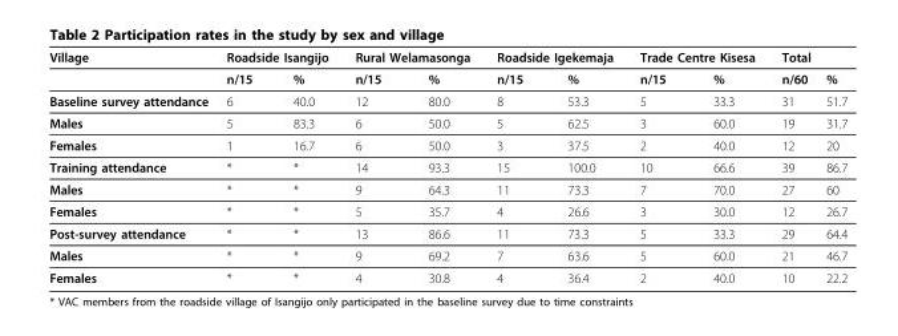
<table><thead><tr><td rowspan="2">Village</td><td colspan="2">Roadside Isangijo</td><td colspan="2">Rural Welamasonga</td><td colspan="2">Roadside Igekemaja</td><td colspan="2">Trade Centre Kisesa</td><td colspan="2">Total</td></tr><tr><td>n/15</td><td>%</td><td>n/15</td><td>%</td><td>n/15</td><td>%</td><td>n/15</td><td>%</td><td>n/60</td><td>%</td></tr></thead><tbody><tr><td>Baseline survey attendance</td><td>6</td><td>40.0</td><td>12</td><td>80.0</td><td>8</td><td>53.3</td><td>5</td><td>33.3</td><td>31</td><td>51.7</td></tr><tr><td>Males</td><td>5</td><td>83.3</td><td>6</td><td>50.0</td><td>5</td><td>62.5</td><td>3</td><td>60.0</td><td>19</td><td>31.7</td></tr><tr><td>Females</td><td>1</td><td>16.7</td><td>6</td><td>50.0</td><td>3</td><td>37.5</td><td>2</td><td>40.0</td><td>12</td><td>20</td></tr><tr><td>Training attendance</td><td>*</td><td>*</td><td>14</td><td>93.3</td><td>15</td><td>100.0</td><td>10</td><td>66.6</td><td>39</td><td>86.7</td></tr><tr><td>Males</td><td>*</td><td>*</td><td>9</td><td>64.3</td><td>11</td><td>73.3</td><td>7</td><td>70.0</td><td>27</td><td>60</td></tr><tr><td>Females</td><td>*</td><td>*</td><td>5</td><td>35.7</td><td>4</td><td>26.6</td><td>3</td><td>30.0</td><td>12</td><td>26.7</td></tr><tr><td>Post-survey attendance</td><td>*</td><td>*</td><td>13</td><td>86.6</td><td>11</td><td>73.3</td><td>5</td><td>33.3</td><td>29</td><td>64.4</td></tr><tr><td>Males</td><td>*</td><td>*</td><td>9</td><td>69.2</td><td>7</td><td>63.6</td><td>5</td><td>60.0</td><td>21</td><td>46.7</td></tr><tr><td>Females</td><td>*</td><td>*</td><td>4</td><td>30.8</td><td>4</td><td>36.4</td><td>2</td><td>40.0</td><td>10</td><td>22.2</td></tr></tbody></table>